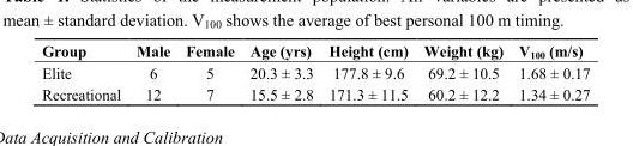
<table><thead><tr><td>Group</td><td>Male</td><td>Female</td><td>Age (yrs)</td><td>Height (cm)</td><td>Weight (kg)</td><td>V<sub>100</sub> (m/s)</td></tr></thead><tbody><tr><td>Elite</td><td>6</td><td>5</td><td>20.3 ± 3.3</td><td>177.8 ± 9.6</td><td>69.2 ± 10.5</td><td>1.68 ± 0.17</td></tr><tr><td>Recreational</td><td>12</td><td>7</td><td>15.5 ± 2.8</td><td>171.3 ± 11.5</td><td>60.2 ± 12.2</td><td>1.34 ± 0.27</td></tr></tbody></table>